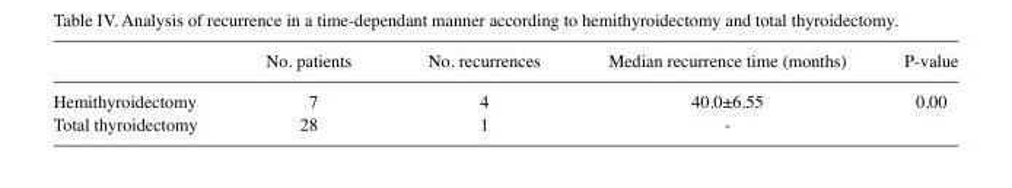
<table><thead><tr><td></td><td>No. patients</td><td>No. recurrences</td><td>Median recurrence time (months)</td><td>P-value</td></tr></thead><tbody><tr><td>Hemithyroidectomy</td><td>7</td><td>4</td><td>40.0±6.55</td><td>0.00</td></tr><tr><td>Total thyroidectomy</td><td>28</td><td>1</td><td>-</td><td></td></tr></tbody></table>